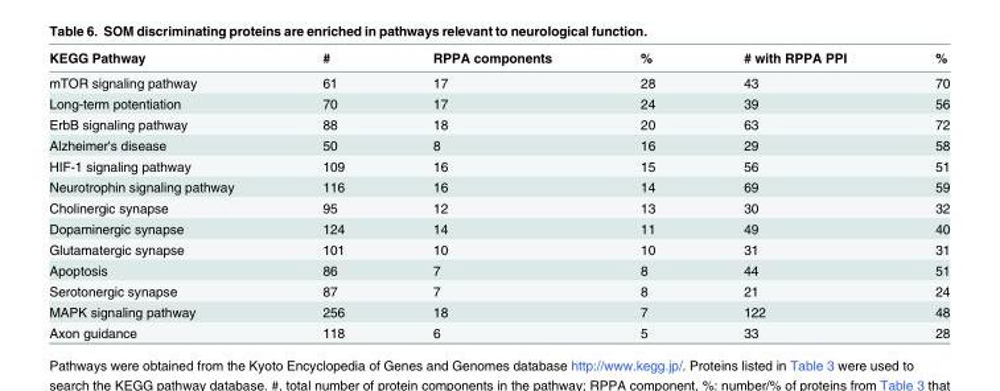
<table><thead><tr><td>KEGG Pathway</td><td>#</td><td>RPPA components</td><td>%</td><td># with RPPA PPI</td><td>%</td></tr></thead><tbody><tr><td>mTOR signaling pathway</td><td>61</td><td>17</td><td>28</td><td>43</td><td>70</td></tr><tr><td>Long-term potentiation</td><td>70</td><td>17</td><td>24</td><td>39</td><td>56</td></tr><tr><td>ErbB signaling pathway</td><td>88</td><td>18</td><td>20</td><td>63</td><td>72</td></tr><tr><td>Alzheimer&#x27;s disease</td><td>50</td><td>8</td><td>16</td><td>29</td><td>58</td></tr><tr><td>HIF-1 signaling pathway</td><td>109</td><td>16</td><td>15</td><td>56</td><td>51</td></tr><tr><td>Neurotrophin signaling pathway</td><td>116</td><td>16</td><td>14</td><td>69</td><td>59</td></tr><tr><td>Cholinergic synapse</td><td>95</td><td>12</td><td>13</td><td>30</td><td>32</td></tr><tr><td>Dopaminergic synapse</td><td>124</td><td>14</td><td>11</td><td>49</td><td>40</td></tr><tr><td>Glutamatergic synapse</td><td>101</td><td>10</td><td>10</td><td>31</td><td>31</td></tr><tr><td>Apoptosis</td><td>86</td><td>7</td><td>8</td><td>44</td><td>51</td></tr><tr><td>Serotonergic synapse</td><td>87</td><td>7</td><td>8</td><td>21</td><td>24</td></tr><tr><td>MAPK signaling pathway</td><td>256</td><td>18</td><td>7</td><td>122</td><td>48</td></tr><tr><td>Axon guidance</td><td>118</td><td>6</td><td>5</td><td>33</td><td>28</td></tr></tbody></table>